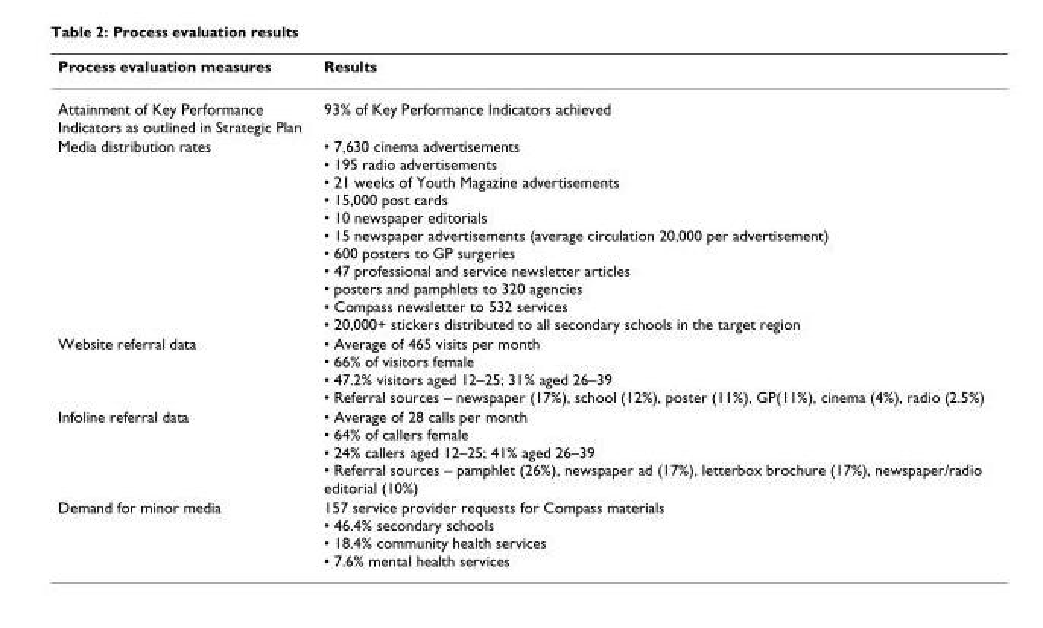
<table><thead><tr><td>Process evaluation measures</td><td>Results</td></tr></thead><tbody><tr><td>Attainment of Key Performance Indicators as outlined in Strategic Plan</td><td>93% of Key Performance Indicators achieved</td></tr><tr><td>Media distribution rates</td><td>• 7,630 cinema advertisements • 195 radio advertisements • 21 weeks of Youth Magazine advertisements • 15,000 post cards • 10 newspaper editorials • 15 newspaper advertisements (average circulation 20,000 per advertisement) • 600 posters to GP surgeries • 47 professional and service newsletter articles • posters and pamphlets to 320 agencies • Compass newsletter to 532 services • 20,000+ stickers distributed to all secondary schools in the target region</td></tr><tr><td>Website referral data</td><td>• Average of 465 visits per month • 66% of visitors female • 47.2% visitors aged 12–25; 31% aged 26–39 • Referral sources – newspaper (17%), school (12%), poster (11%), GP(11%), cinema (4%), radio (2.5%)</td></tr><tr><td>Infoline referral data</td><td>• Average of 28 calls per month • 64% of callers female • 24% callers aged 12–25; 41% aged 26–39 • Referral sources – pamphlet (26%), newspaper ad (17%), letterbox brochure (17%), newspaper/radio editorial (10%)</td></tr><tr><td>Demand for minor media</td><td>157 service provider requests for Compass materials • 46.4% secondary schools • 18.4% community health services • 7.6% mental health services</td></tr></tbody></table>